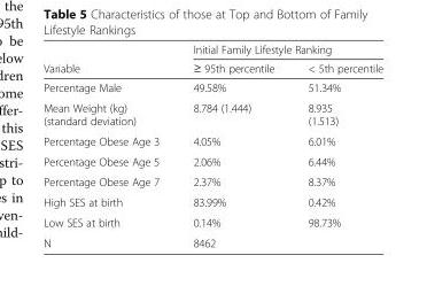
<table><thead><tr><td rowspan="2">Variable</td><td colspan="2">Initial Family Lifestyle Ranking</td></tr><tr><td>≥ 95th percentile</td><td>&lt; 5th percentile</td></tr></thead><tbody><tr><td>Percentage Male</td><td>49.58%</td><td>51.34%</td></tr><tr><td>Mean Weight (kg) (standard deviation)</td><td>8.784 (1.444)</td><td>8.935 (1.513)</td></tr><tr><td>Percentage Obese Age 3</td><td>4.05%</td><td>6.01%</td></tr><tr><td>Percentage Obese Age 5</td><td>2.06%</td><td>6.44%</td></tr><tr><td>Percentage Obese Age 7</td><td>2.37%</td><td>8.37%</td></tr><tr><td>High SES at birth</td><td>83.99%</td><td>0.42%</td></tr><tr><td>Low SES at birth</td><td>0.14%</td><td>98.73%</td></tr><tr><td>N</td><td colspan="2">8462</td></tr></tbody></table>